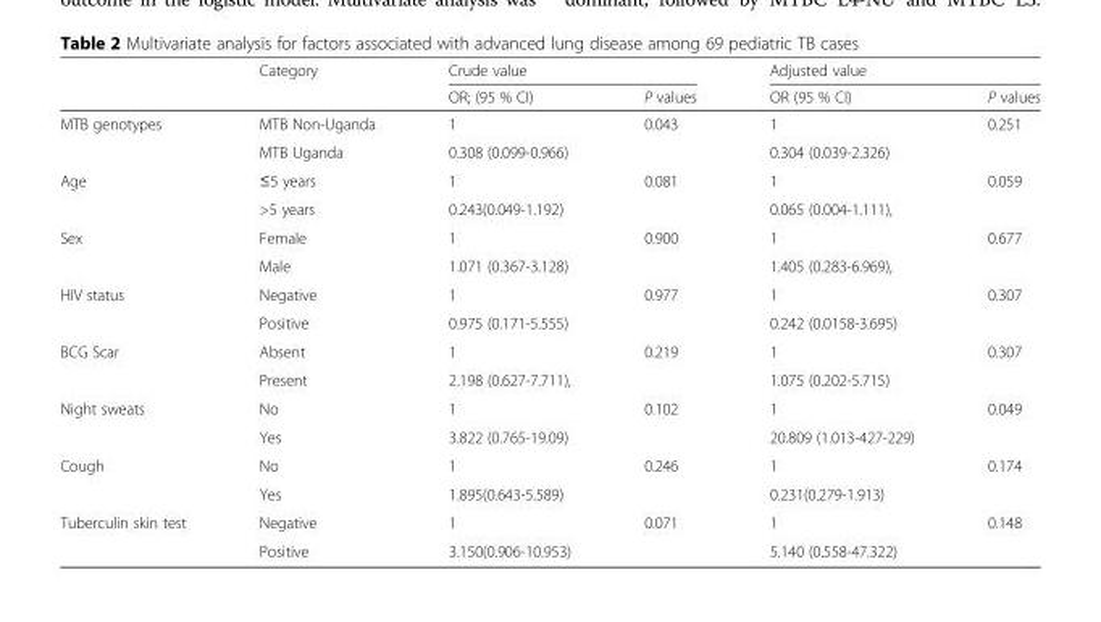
<table><thead><tr><td rowspan="2"></td><td rowspan="2">Category</td><td colspan="2">Crude value</td><td colspan="2">Adjusted value</td></tr><tr><td>OR; (95 % CI)</td><td>P values</td><td>OR (95 % CI)</td><td>P values</td></tr></thead><tbody><tr><td rowspan="2">MTB genotypes</td><td>MTB Non-Uganda</td><td>1</td><td rowspan="2">0.043</td><td>1</td><td rowspan="2">0.251</td></tr><tr><td>MTB Uganda</td><td>0.308 (0.099-0.966)</td><td>0.304 (0.039-2.326)</td></tr><tr><td rowspan="2">Age</td><td>≤5 years</td><td>1</td><td rowspan="2">0.081</td><td>1</td><td rowspan="2">0.059</td></tr><tr><td>&gt;5 years</td><td>0.243(0.049-1.192)</td><td>0.065 (0.004-1.111),</td></tr><tr><td rowspan="2">Sex</td><td>Female</td><td>1</td><td rowspan="2">0.900</td><td>1</td><td rowspan="2">0.677</td></tr><tr><td>Male</td><td>1.071 (0.367-3.128)</td><td>1.405 (0.283-6.969),</td></tr><tr><td rowspan="2">HIV status</td><td>Negative</td><td>1</td><td rowspan="2">0.977</td><td>1</td><td rowspan="2">0.307</td></tr><tr><td>Positive</td><td>0.975 (0.171-5.555)</td><td>0.242 (0.0158-3.695)</td></tr><tr><td rowspan="2">BCG Scar</td><td>Absent</td><td>1</td><td rowspan="2">0.219</td><td>1</td><td rowspan="2">0.307</td></tr><tr><td>Present</td><td>2.198 (0.627-7.711),</td><td>1.075 (0.202-5.715)</td></tr><tr><td rowspan="2">Night sweats</td><td>No</td><td>1</td><td rowspan="2">0.102</td><td>1</td><td rowspan="2">0.049</td></tr><tr><td>Yes</td><td>3.822 (0.765-19.09)</td><td>20.809 (1.013-427-229)</td></tr><tr><td rowspan="2">Cough</td><td>No</td><td>1</td><td rowspan="2">0.246</td><td>1</td><td rowspan="2">0.174</td></tr><tr><td>Yes</td><td>1.895(0.643-5.589)</td><td>0.231(0.279-1.913)</td></tr><tr><td rowspan="2">Tuberculin skin test</td><td>Negative</td><td>1</td><td rowspan="2">0.071</td><td>1</td><td rowspan="2">0.148</td></tr><tr><td>Positive</td><td>3.150(0.906-10.953)</td><td>5.140 (0.558-47.322)</td></tr></tbody></table>